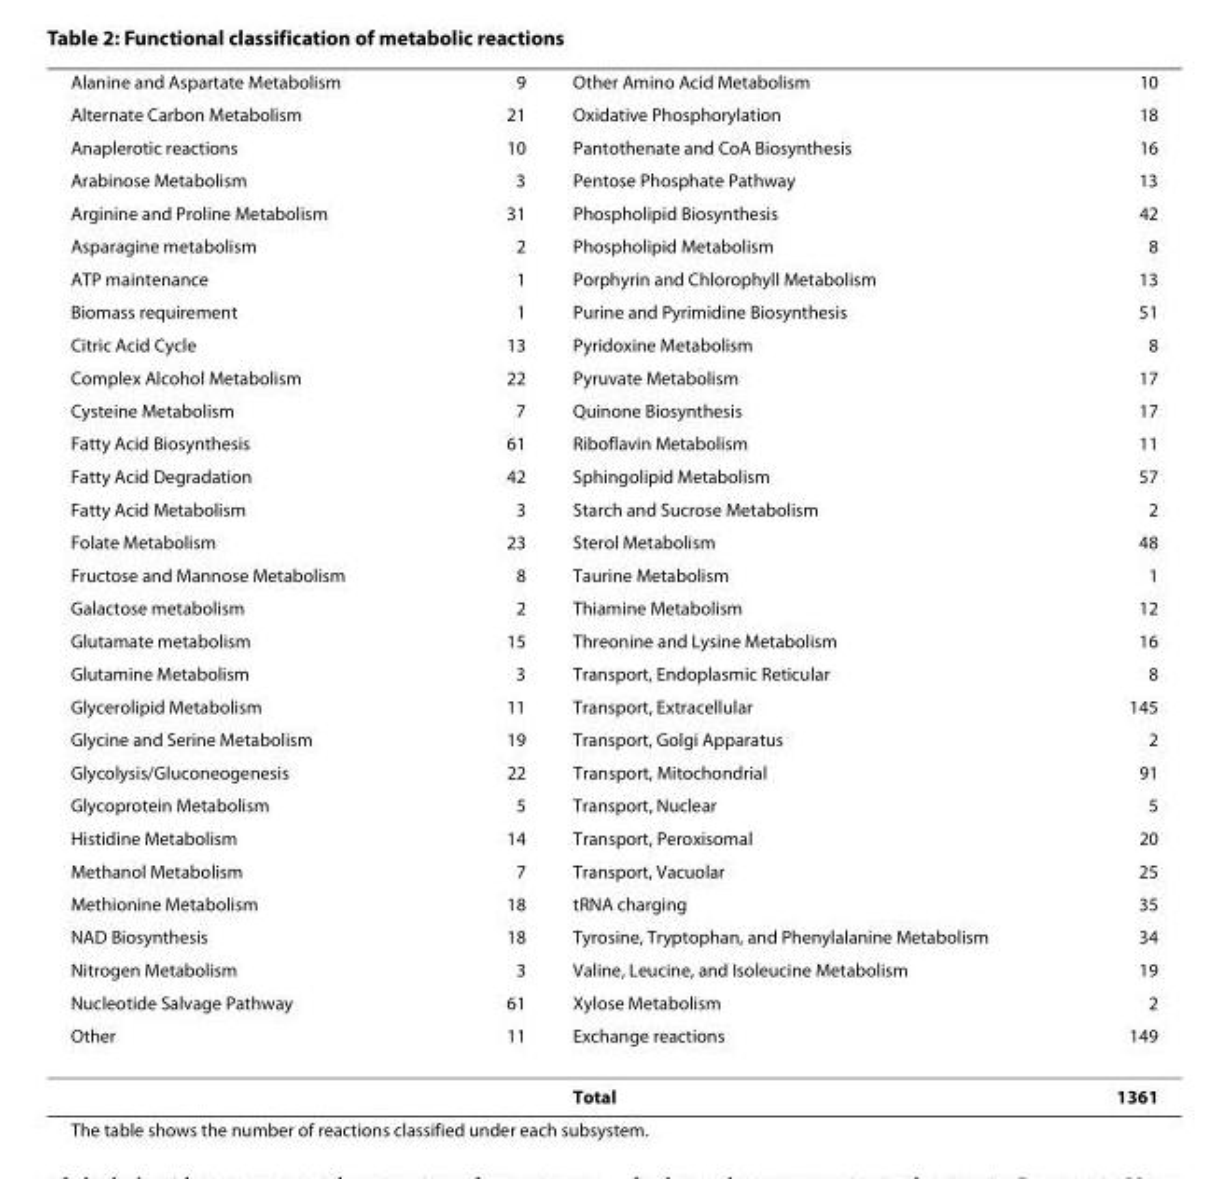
<table><thead><tr><td rowspan="30">Alanine and Aspartate Metabolism Alternate Carbon Metabolism Anaplerotic reactions Arabinose Metabolism Arginine and Proline Metabolism Asparagine metabolism ATP maintenance Biomass requirement Citric Acid Cycle Complex Alcohol Metabolism Cysteine Metabolism Fatty Acid Biosynthesis Fatty Acid Degradation Fatty Acid Metabolism Folate Metabolism Fructose and Mannose Metabolism Galactose metabolism Glutamate metabolism Glutamine Metabolism Glycerolipid Metabolism Glycine and Serine Metabolism Glycolysis/Gluconeogenesis Glycoprotein Metabolism Histidine Metabolism Methanol Metabolism Methionine Metabolism NAD Biosynthesis Nitrogen Metabolism Nucleotide Salvage Pathway Other</td><td rowspan="30">9 21 10 3 31 2 1 1 13 22 7 61 42 3 23 8 2 15 3 11 19 22 5 14 7 18 18 3 61 11</td><td rowspan="30">Other Amino Acid Metabolism Oxidative Phosphorylation Pantothenate and CoA Biosynthesis Pentose Phosphate Pathway Phospholipid Biosynthesis Phospholipid Metabolism Porphyrin and Chlorophyll Metabolism Purine and Pyrimidine Biosynthesis Pyridoxine Metabolism Pyruvate Metabolism Quinone Biosynthesis Riboflavin Metabolism Sphingolipid Metabolism Starch and Sucrose Metabolism Sterol Metabolism Taurine Metabolism Thiamine Metabolism Threonine and Lysine Metabolism Transport, Endoplasmic Reticular Transport, Extracellular Transport, Golgi Apparatus Transport, Mitochondrial Transport, Nuclear Transport, Peroxisomal Transport, Vacuolar tRNA charging Tyrosine, Tryptophan, and Phenylalanine Metabolism Valine, Leucine, and Isoleucine Metabolism Xylose Metabolism Exchange reactions</td><td rowspan="30">10 18 16 13 42 8 13 51 8 17 17 11 57 2 48 1 12 16 8 145 2 91 5 20 25 35 34 19 2 149</td></tr><tr></tr><tr></tr><tr></tr><tr></tr><tr></tr><tr></tr><tr></tr><tr></tr><tr></tr><tr></tr><tr></tr><tr></tr><tr></tr><tr></tr><tr></tr><tr></tr><tr></tr><tr></tr><tr></tr><tr></tr><tr></tr><tr></tr><tr></tr><tr></tr><tr></tr><tr></tr><tr></tr><tr></tr><tr></tr></thead><tbody><tr><td></td><td></td><td>Total</td><td>1361</td></tr></tbody></table>